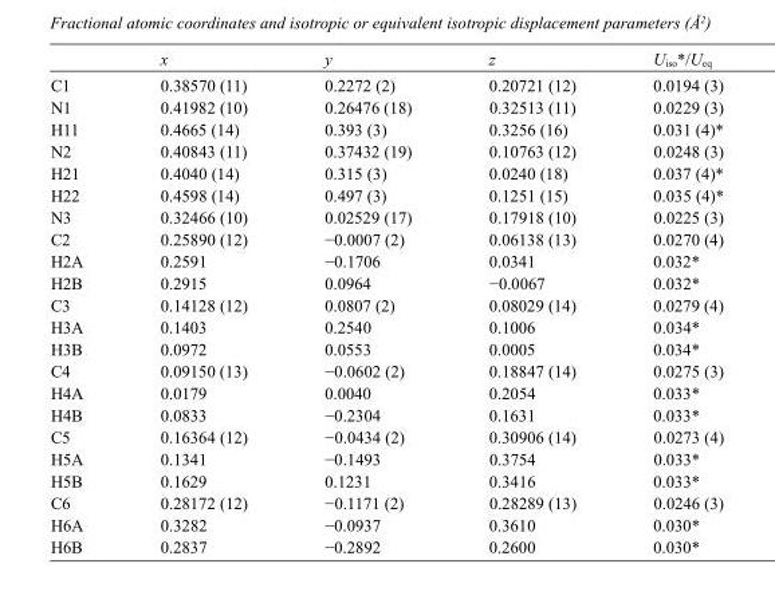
<table><thead><tr><td></td><td>x</td><td>y</td><td>z</td><td>U<sub>iso</sub>*/U<sub>eq</sub></td></tr></thead><tbody><tr><td>C1</td><td>0.38570 (11)</td><td>0.2272 (2)</td><td>0.20721 (12)</td><td>0.0194 (3)</td></tr><tr><td>N1</td><td>0.41982 (10)</td><td>0.26476 (18)</td><td>0.32513 (11)</td><td>0.0229 (3)</td></tr><tr><td>H11</td><td>0.4665 (14)</td><td>0.393 (3)</td><td>0.3256 (16)</td><td>0.031 (4)*</td></tr><tr><td>N2</td><td>0.40843 (11)</td><td>0.37432 (19)</td><td>0.10763 (12)</td><td>0.0248 (3)</td></tr><tr><td>H21</td><td>0.4040 (14)</td><td>0.315 (3)</td><td>0.0240 (18)</td><td>0.037 (4)*</td></tr><tr><td>H22</td><td>0.4598 (14)</td><td>0.497 (3)</td><td>0.1251 (15)</td><td>0.035 (4)*</td></tr><tr><td>N3</td><td>0.32466 (10)</td><td>0.02529 (17)</td><td>0.17918 (10)</td><td>0.0225 (3)</td></tr><tr><td>C2</td><td>0.25890 (12)</td><td>−0.0007 (2)</td><td>0.06138 (13)</td><td>0.0270 (4)</td></tr><tr><td>H2A</td><td>0.2591</td><td>−0.1706</td><td>0.0341</td><td>0.032*</td></tr><tr><td>H2B</td><td>0.2915</td><td>0.0964</td><td>−0.0067</td><td>0.032*</td></tr><tr><td>C3</td><td>0.14128 (12)</td><td>0.0807 (2)</td><td>0.08029 (14)</td><td>0.0279 (4)</td></tr><tr><td>H3A</td><td>0.1403</td><td>0.2540</td><td>0.1006</td><td>0.034*</td></tr><tr><td>H3B</td><td>0.0972</td><td>0.0553</td><td>0.0005</td><td>0.034*</td></tr><tr><td>C4</td><td>0.09150 (13)</td><td>−0.0602 (2)</td><td>0.18847 (14)</td><td>0.0275 (3)</td></tr><tr><td>H4A</td><td>0.0179</td><td>0.0040</td><td>0.2054</td><td>0.033*</td></tr><tr><td>H4B</td><td>0.0833</td><td>−0.2304</td><td>0.1631</td><td>0.033*</td></tr><tr><td>C5</td><td>0.16364 (12)</td><td>−0.0434 (2)</td><td>0.30906 (14)</td><td>0.0273 (4)</td></tr><tr><td>H5A</td><td>0.1341</td><td>−0.1493</td><td>0.3754</td><td>0.033*</td></tr><tr><td>H5B</td><td>0.1629</td><td>0.1231</td><td>0.3416</td><td>0.033*</td></tr><tr><td>C6</td><td>0.28172 (12)</td><td>−0.1171 (2)</td><td>0.28289 (13)</td><td>0.0246 (3)</td></tr><tr><td>H6A</td><td>0.3282</td><td>−0.0937</td><td>0.3610</td><td>0.030*</td></tr><tr><td>H6B</td><td>0.2837</td><td>−0.2892</td><td>0.2600</td><td>0.030*</td></tr></tbody></table>